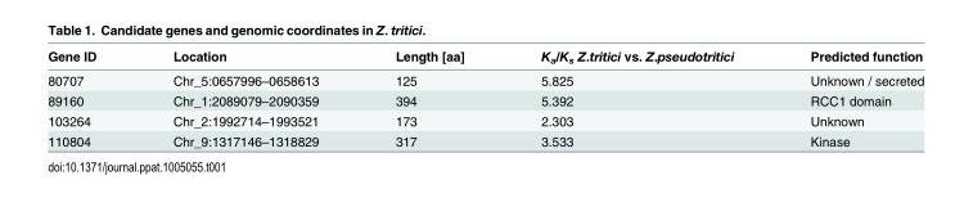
<table><thead><tr><td>Gene ID</td><td>Location</td><td>Length [aa]</td><td>K<sub>a</sub>/K<sub>s</sub> Z.tritici vs. Z.pseudotritici</td><td>Predicted function</td></tr></thead><tbody><tr><td>80707</td><td>Chr_5:0657996–0658613</td><td>125</td><td>5.825</td><td>Unknown / secreted</td></tr><tr><td>89160</td><td>Chr_1:2089079–2090359</td><td>394</td><td>5.392</td><td>RCC1 domain</td></tr><tr><td>103264</td><td>Chr_2:1992714–1993521</td><td>173</td><td>2.303</td><td>Unknown</td></tr><tr><td>110804</td><td>Chr_9:1317146–1318829</td><td>317</td><td>3.533</td><td>Kinase</td></tr></tbody></table>